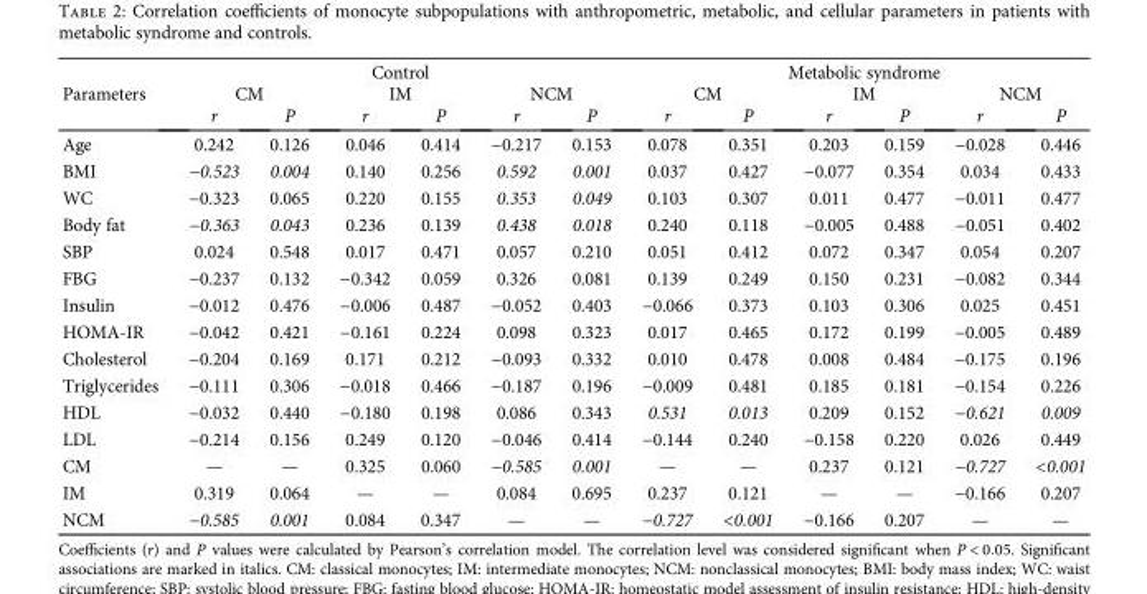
<table><thead><tr><td rowspan="3">Parameters</td><td colspan="6">Control</td><td colspan="6">Metabolic syndrome</td></tr><tr><td colspan="2">CM</td><td colspan="2">IM</td><td colspan="2">NCM</td><td colspan="2">CM</td><td colspan="2">IM</td><td colspan="2">NCM</td></tr><tr><td>r</td><td>P</td><td>r</td><td>P</td><td>r</td><td>P</td><td>r</td><td>P</td><td>r</td><td>P</td><td>r</td><td>P</td></tr></thead><tbody><tr><td>Age</td><td>0.242</td><td>0.126</td><td>0.046</td><td>0.414</td><td>−0.217</td><td>0.153</td><td>0.078</td><td>0.351</td><td>0.203</td><td>0.159</td><td>−0.028</td><td>0.446</td></tr><tr><td>BMI</td><td>−0.523</td><td>0.004</td><td>0.140</td><td>0.256</td><td>0.592</td><td>0.001</td><td>0.037</td><td>0.427</td><td>−0.077</td><td>0.354</td><td>0.034</td><td>0.433</td></tr><tr><td>WC</td><td>−0.323</td><td>0.065</td><td>0.220</td><td>0.155</td><td>0.353</td><td>0.049</td><td>0.103</td><td>0.307</td><td>0.011</td><td>0.477</td><td>−0.011</td><td>0.477</td></tr><tr><td>Body fat</td><td>−0.363</td><td>0.043</td><td>0.236</td><td>0.139</td><td>0.438</td><td>0.018</td><td>0.240</td><td>0.118</td><td>−0.005</td><td>0.488</td><td>−0.051</td><td>0.402</td></tr><tr><td>SBP</td><td>0.024</td><td>0.548</td><td>0.017</td><td>0.471</td><td>0.057</td><td>0.210</td><td>0.051</td><td>0.412</td><td>0.072</td><td>0.347</td><td>0.054</td><td>0.207</td></tr><tr><td>FBG</td><td>−0.237</td><td>0.132</td><td>−0.342</td><td>0.059</td><td>0.326</td><td>0.081</td><td>0.139</td><td>0.249</td><td>0.150</td><td>0.231</td><td>−0.082</td><td>0.344</td></tr><tr><td>Insulin</td><td>−0.012</td><td>0.476</td><td>−0.006</td><td>0.487</td><td>−0.052</td><td>0.403</td><td>−0.066</td><td>0.373</td><td>0.103</td><td>0.306</td><td>0.025</td><td>0.451</td></tr><tr><td>HOMA-IR</td><td>−0.042</td><td>0.421</td><td>−0.161</td><td>0.224</td><td>0.098</td><td>0.323</td><td>0.017</td><td>0.465</td><td>0.172</td><td>0.199</td><td>−0.005</td><td>0.489</td></tr><tr><td>Cholesterol</td><td>−0.204</td><td>0.169</td><td>0.171</td><td>0.212</td><td>−0.093</td><td>0.332</td><td>0.010</td><td>0.478</td><td>0.008</td><td>0.484</td><td>−0.175</td><td>0.196</td></tr><tr><td>Triglycerides</td><td>−0.111</td><td>0.306</td><td>−0.018</td><td>0.466</td><td>−0.187</td><td>0.196</td><td>−0.009</td><td>0.481</td><td>0.185</td><td>0.181</td><td>−0.154</td><td>0.226</td></tr><tr><td>HDL</td><td>−0.032</td><td>0.440</td><td>−0.180</td><td>0.198</td><td>0.086</td><td>0.343</td><td>0.531</td><td>0.013</td><td>0.209</td><td>0.152</td><td>−0.621</td><td>0.009</td></tr><tr><td>LDL</td><td>−0.214</td><td>0.156</td><td>0.249</td><td>0.120</td><td>−0.046</td><td>0.414</td><td>−0.144</td><td>0.240</td><td>−0.158</td><td>0.220</td><td>0.026</td><td>0.449</td></tr><tr><td>CM</td><td>—</td><td>—</td><td>0.325</td><td>0.060</td><td>−0.585</td><td>0.001</td><td>—</td><td>—</td><td>0.237</td><td>0.121</td><td>−0.727</td><td>&lt;0.001</td></tr><tr><td>IM</td><td>0.319</td><td>0.064</td><td>—</td><td>—</td><td>0.084</td><td>0.695</td><td>0.237</td><td>0.121</td><td>—</td><td>—</td><td>−0.166</td><td>0.207</td></tr><tr><td>NCM</td><td>−0.585</td><td>0.001</td><td>0.084</td><td>0.347</td><td>—</td><td>—</td><td>−0.727</td><td>&lt;0.001</td><td>−0.166</td><td>0.207</td><td>—</td><td>—</td></tr></tbody></table>